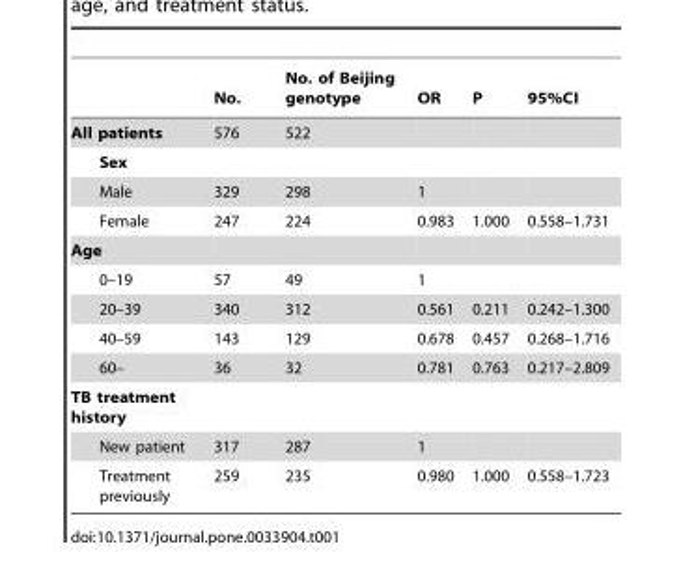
<table><thead><tr><td></td><td>No.</td><td>No. of Beijing genotype</td><td>OR</td><td>P</td><td>95%CI</td></tr></thead><tbody><tr><td>All patients</td><td>576</td><td>522</td><td></td><td></td><td></td></tr><tr><td colspan="6">Sex</td></tr><tr><td>Male</td><td>329</td><td>298</td><td>1</td><td></td><td></td></tr><tr><td>Female</td><td>247</td><td>224</td><td>0.983</td><td>1.000</td><td>0.558–1.731</td></tr><tr><td colspan="6">Age</td></tr><tr><td>0–19</td><td>57</td><td>49</td><td>1</td><td></td><td></td></tr><tr><td>20–39</td><td>340</td><td>312</td><td>0.561</td><td>0.211</td><td>0.242–1.300</td></tr><tr><td>40–59</td><td>143</td><td>129</td><td>0.678</td><td>0.457</td><td>0.268–1.716</td></tr><tr><td>60–</td><td>36</td><td>32</td><td>0.781</td><td>0.763</td><td>0.217–2.809</td></tr><tr><td colspan="6">TB treatment history</td></tr><tr><td>New patient</td><td>317</td><td>287</td><td>1</td><td></td><td></td></tr><tr><td>Treatment previously</td><td>259</td><td>235</td><td>0.980</td><td>1.000</td><td>0.558–1.723</td></tr></tbody></table>